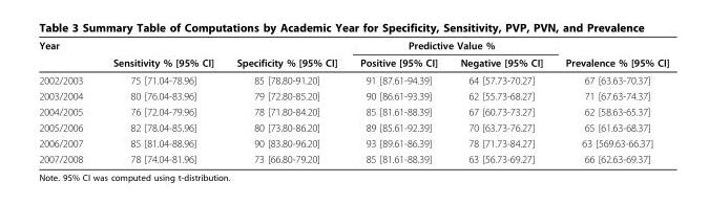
<table><thead><tr><td rowspan="2">Year</td><td rowspan="2">Sensitivity % [95% CI]</td><td rowspan="2">Specificity % [95% CI]</td><td colspan="2">Predictive Value %</td><td rowspan="2">Prevalence % [95% CI]</td></tr><tr><td>Positive [95% CI]</td><td>Negative [95% CI]</td></tr></thead><tbody><tr><td>2002/2003</td><td>75 [71.04-78.96]</td><td>85 [78.80-91.20]</td><td>91 [87.61-94.39]</td><td>64 [57.73-70.27]</td><td>67 [63.63-70.37]</td></tr><tr><td>2003/2004</td><td>80 [76.04-83.96]</td><td>79 [72.80-85.20]</td><td>90 [86.61-93.39]</td><td>62 [55.73-68.27]</td><td>71 [67.63-74.37]</td></tr><tr><td>2004/2005</td><td>76 [72.04-79.96]</td><td>78 [71.80-84.20]</td><td>85 [81.61-88.39]</td><td>67 [60.73-73.27]</td><td>62 [58.63-65.37]</td></tr><tr><td>2005/2006</td><td>82 [78.04-85.96]</td><td>80 [73.80-86.20]</td><td>89 [85.61-92.39]</td><td>70 [63.73-76.27]</td><td>65 [61.63-68.37]</td></tr><tr><td>2006/2007</td><td>85 [81.04-88.96]</td><td>90 [83.80-96.20]</td><td>93 [89.61-86.39]</td><td>78 [71.73-84.27]</td><td>63 [569.63-66.37]</td></tr><tr><td>2007/2008</td><td>78 [74.04-81.96]</td><td>73 [66.80-79.20]</td><td>85 [81.61-88.39]</td><td>63 [56.73-69.27]</td><td>66 [62.63-69.37]</td></tr></tbody></table>